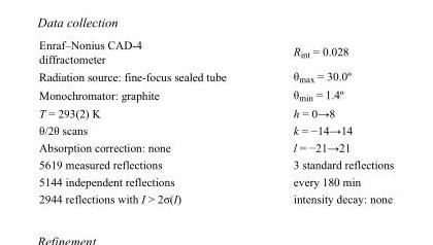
<table><tbody><tr><td>Enraf–Nonius CAD-4 diffractometer</td><td>R<sub>int</sub> = 0.028</td></tr><tr><td>Radiation source: fine-focus sealed tube</td><td>θ<sub>max</sub> = 30.0º</td></tr><tr><td>Monochromator: graphite</td><td>θ<sub>min</sub> = 1.4º</td></tr><tr><td>T = 293(2) K</td><td>h = 0→8</td></tr><tr><td>θ/2θ scans</td><td>k = −14→14</td></tr><tr><td>Absorption correction: none</td><td>l = −21→21</td></tr><tr><td>5619 measured reflections</td><td>3 standard reflections</td></tr><tr><td>5144 independent reflections</td><td>every 180 min</td></tr><tr><td>2944 reflections with I &gt; 2σ(I)</td><td>intensity decay: none</td></tr></tbody></table>